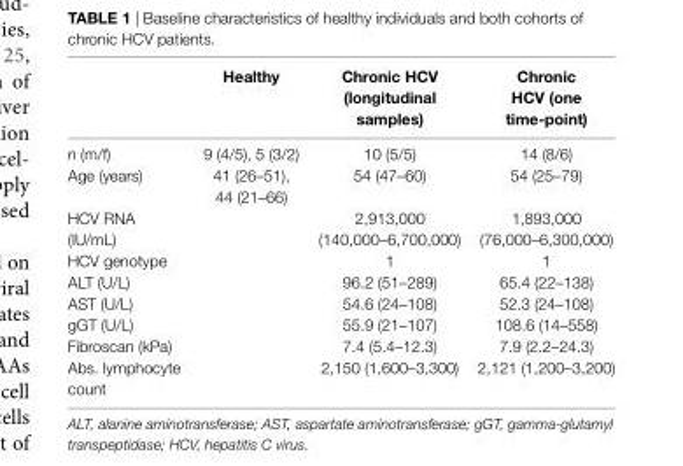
<table><thead><tr><td></td><td>healthy</td><td>chronic hcV (longitudinal samples)</td><td>chronic hcV (one time-point)</td></tr></thead><tbody><tr><td>n (m/f)</td><td>9 (4/5), 5 (3/2)</td><td>10 (5/5)</td><td>14 (8/6)</td></tr><tr><td>Age (years)</td><td>41 (26–51), 44 (21–66)</td><td>54 (47–60)</td><td>54 (25–79)</td></tr><tr><td>HCV RNA (IU/mL)</td><td></td><td>2,913,000 (140,000–6,700,000)</td><td>1,893,000 (76,000–6,300,000)</td></tr><tr><td>HCV genotype</td><td></td><td>1</td><td>1</td></tr><tr><td>ALT (U/L)</td><td></td><td>96.2 (51–289)</td><td>65.4 (22–138)</td></tr><tr><td>AST (U/L)</td><td></td><td>54.6 (24–108)</td><td>52.3 (24–108)</td></tr><tr><td>gGT (U/L)</td><td></td><td>55.9 (21–107)</td><td>108.6 (14–558)</td></tr><tr><td>Fibroscan (kPa)</td><td></td><td>7.4 (5.4–12.3)</td><td>7.9 (2.2–24.3)</td></tr><tr><td>Abs. lymphocyte count</td><td></td><td>2,150 (1,600–3,300)</td><td>2,121 (1,200–3,200)</td></tr></tbody></table>